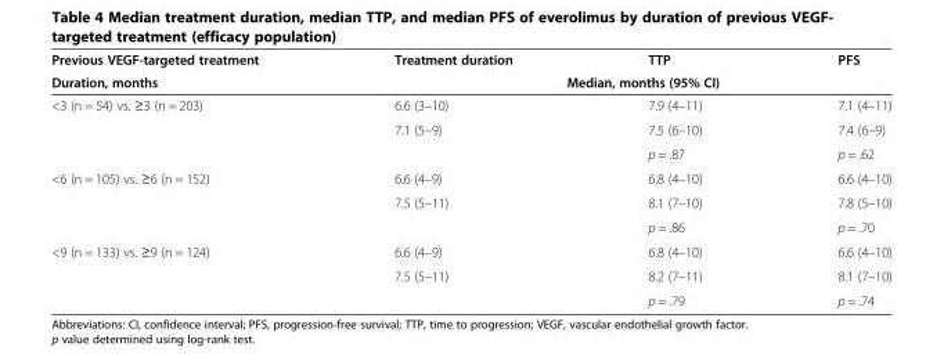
<table><thead><tr><td rowspan="2">Previous VEGF-targeted treatment Duration, months</td><td>Treatment duration</td><td>TTP</td><td>PFS</td></tr><tr><td colspan="3">Median, months (95% CI)</td></tr></thead><tbody><tr><td rowspan="3">&lt;3 (n = 54) vs. ≥3 (n = 203)</td><td>6.6 (3–10)</td><td>7.9 (4–11)</td><td>7.1 (4–11)</td></tr><tr><td>7.1 (5–9)</td><td>7.5 (6–10)</td><td>7.4 (6–9)</td></tr><tr><td></td><td>p = .87</td><td>p = .62</td></tr><tr><td rowspan="3">&lt;6 (n = 105) vs. ≥6 (n = 152)</td><td>6.6 (4–9)</td><td>6.8 (4–10)</td><td>6.6 (4–10)</td></tr><tr><td>7.5 (5–11)</td><td>8.1 (7–10)</td><td>7.8 (5–10)</td></tr><tr><td></td><td>p = .86</td><td>p = .70</td></tr><tr><td rowspan="3">&lt;9 (n = 133) vs. ≥9 (n = 124)</td><td>6.6 (4–9)</td><td>6.8 (4–10)</td><td>6.6 (4–10)</td></tr><tr><td>7.5 (5–11)</td><td>8.2 (7–11)</td><td>8.1 (7–10)</td></tr><tr><td></td><td>p = .79</td><td>p = .74</td></tr></tbody></table>